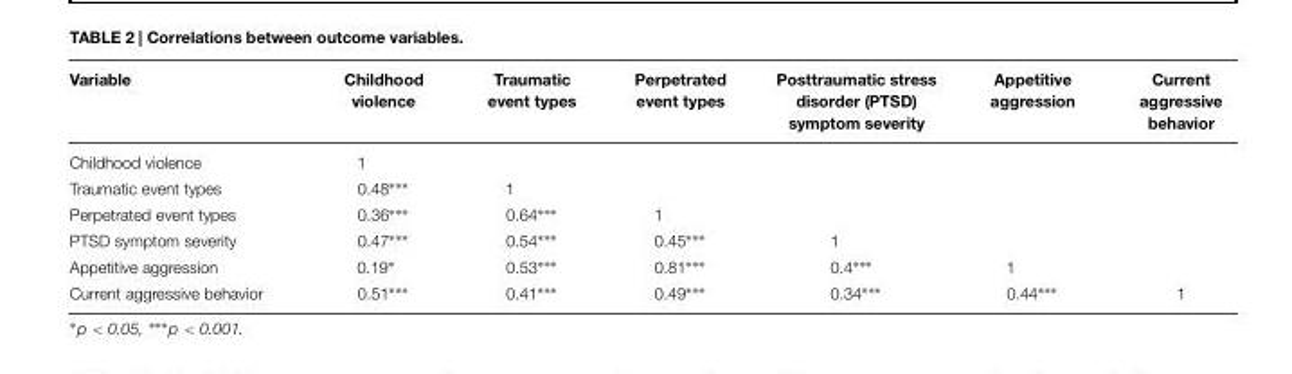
<table><thead><tr><td>Variable</td><td>Childhood violence</td><td>Traumatic event types</td><td>Perpetrated event types</td><td>Posttraumatic stress disorder (PTSD) symptom severity</td><td>Appetitive aggression</td><td>Current aggressive behavior</td></tr></thead><tbody><tr><td>Childhood violence</td><td>1</td><td></td><td></td><td></td><td></td><td></td></tr><tr><td>Traumatic event types</td><td>0.48∗∗∗</td><td>1</td><td></td><td></td><td></td><td></td></tr><tr><td>Perpetrated event types</td><td>0.36∗∗∗</td><td>0.64∗∗∗</td><td>1</td><td></td><td></td><td></td></tr><tr><td>PTSD symptom severity</td><td>0.47∗∗∗</td><td>0.54∗∗∗</td><td>0.45∗∗∗</td><td>1</td><td></td><td></td></tr><tr><td>Appetitive aggression</td><td>0.19∗</td><td>0.53∗∗∗</td><td>0.81∗∗∗</td><td>0.4∗∗∗</td><td>1</td><td></td></tr><tr><td>Current aggressive behavior</td><td>0.51∗∗∗</td><td>0.41∗∗∗</td><td>0.49∗∗∗</td><td>0.34∗∗∗</td><td>0.44∗∗∗</td><td>1</td></tr></tbody></table>